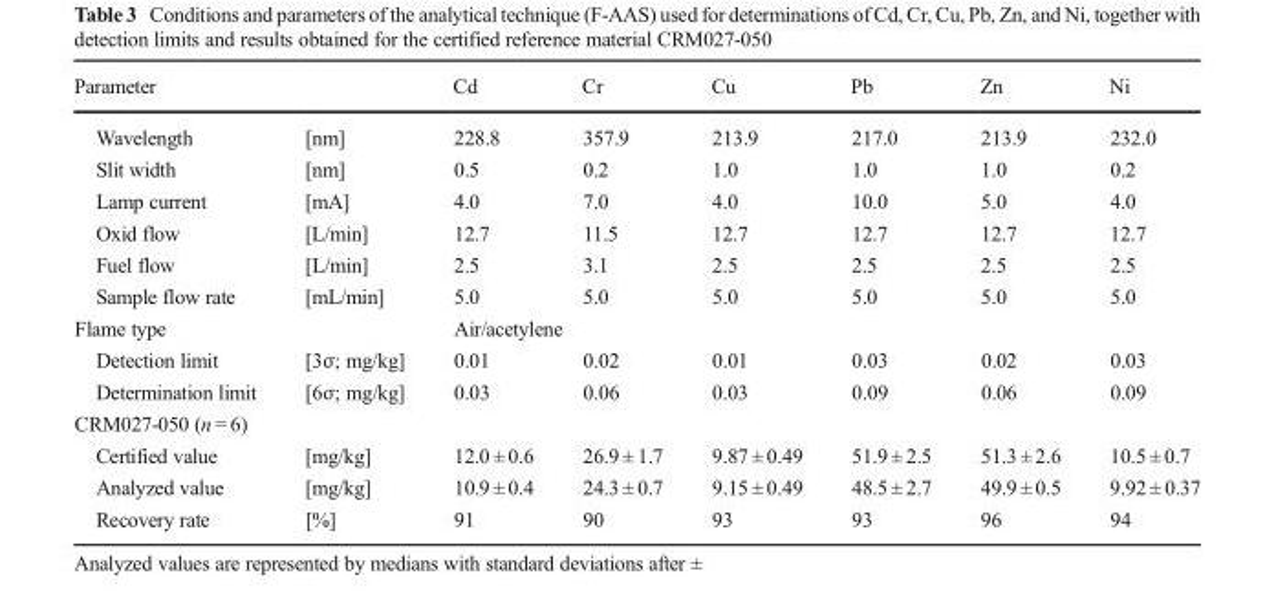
<table><thead><tr><td>Parameter</td><td></td><td>Cd</td><td>Cr</td><td>Cu</td><td>Pb</td><td>Zn</td><td>Ni</td></tr></thead><tbody><tr><td>Wavelength</td><td>[nm]</td><td>228.8</td><td>357.9</td><td>213.9</td><td>217.0</td><td>213.9</td><td>232.0</td></tr><tr><td>Slit width</td><td>[nm]</td><td>0.5</td><td>0.2</td><td>1.0</td><td>1.0</td><td>1.0</td><td>0.2</td></tr><tr><td>Lamp current</td><td>[mA]</td><td>4.0</td><td>7.0</td><td>4.0</td><td>10.0</td><td>5.0</td><td>4.0</td></tr><tr><td>Oxid flow</td><td>[L/min]</td><td>12.7</td><td>11.5</td><td>12.7</td><td>12.7</td><td>12.7</td><td>12.7</td></tr><tr><td>Fuel flow</td><td>[L/min]</td><td>2.5</td><td>3.1</td><td>2.5</td><td>2.5</td><td>2.5</td><td>2.5</td></tr><tr><td>Sample flow rate</td><td>[mL/min]</td><td>5.0</td><td>5.0</td><td>5.0</td><td>5.0</td><td>5.0</td><td>5.0</td></tr><tr><td>Flame type</td><td></td><td colspan="6">Air/acetylene</td></tr><tr><td>Detection limit</td><td>[3σ; mg/kg]</td><td>0.01</td><td>0.02</td><td>0.01</td><td>0.03</td><td>0.02</td><td>0.03</td></tr><tr><td>Determination limit</td><td>[6σ; mg/kg]</td><td>0.03</td><td>0.06</td><td>0.03</td><td>0.09</td><td>0.06</td><td>0.09</td></tr><tr><td colspan="8">CRM027-050 (n = 6)</td></tr><tr><td>Certified value</td><td>[mg/kg]</td><td>12.0 ± 0.6</td><td>26.9 ± 1.7</td><td>9.87 ± 0.49</td><td>51.9 ± 2.5</td><td>51.3 ± 2.6</td><td>10.5 ± 0.7</td></tr><tr><td>Analyzed value</td><td>[mg/kg]</td><td>10.9 ± 0.4</td><td>24.3 ± 0.7</td><td>9.15 ± 0.49</td><td>48.5 ± 2.7</td><td>49.9 ± 0.5</td><td>9.92 ± 0.37</td></tr><tr><td>Recovery rate</td><td>[%]</td><td>91</td><td>90</td><td>93</td><td>93</td><td>96</td><td>94</td></tr></tbody></table>